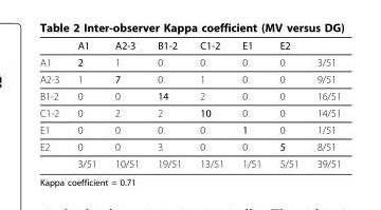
<table><thead><tr><td></td><td>A1</td><td>A2-3</td><td>B1-2</td><td>C1-2</td><td>E1</td><td>E2</td><td></td></tr></thead><tbody><tr><td>A1</td><td>2</td><td>1</td><td>0</td><td>0</td><td>0</td><td>0</td><td>3/51</td></tr><tr><td>A2-3</td><td>1</td><td>7</td><td>0</td><td>1</td><td>0</td><td>0</td><td>9/51</td></tr><tr><td>B1-2</td><td>0</td><td>0</td><td>14</td><td>2</td><td>0</td><td>0</td><td>16/51</td></tr><tr><td>C1-2</td><td>0</td><td>2</td><td>2</td><td>10</td><td>0</td><td>0</td><td>14/51</td></tr><tr><td>E1</td><td>0</td><td>0</td><td>0</td><td>0</td><td>1</td><td>0</td><td>1/51</td></tr><tr><td rowspan="2">E2</td><td>0</td><td>0</td><td>3</td><td>0</td><td>0</td><td>5</td><td>8/51</td></tr><tr><td>3/51</td><td>10/51</td><td>19/51</td><td>13/51</td><td>1/51</td><td>5/51</td><td>39/51</td></tr></tbody></table>